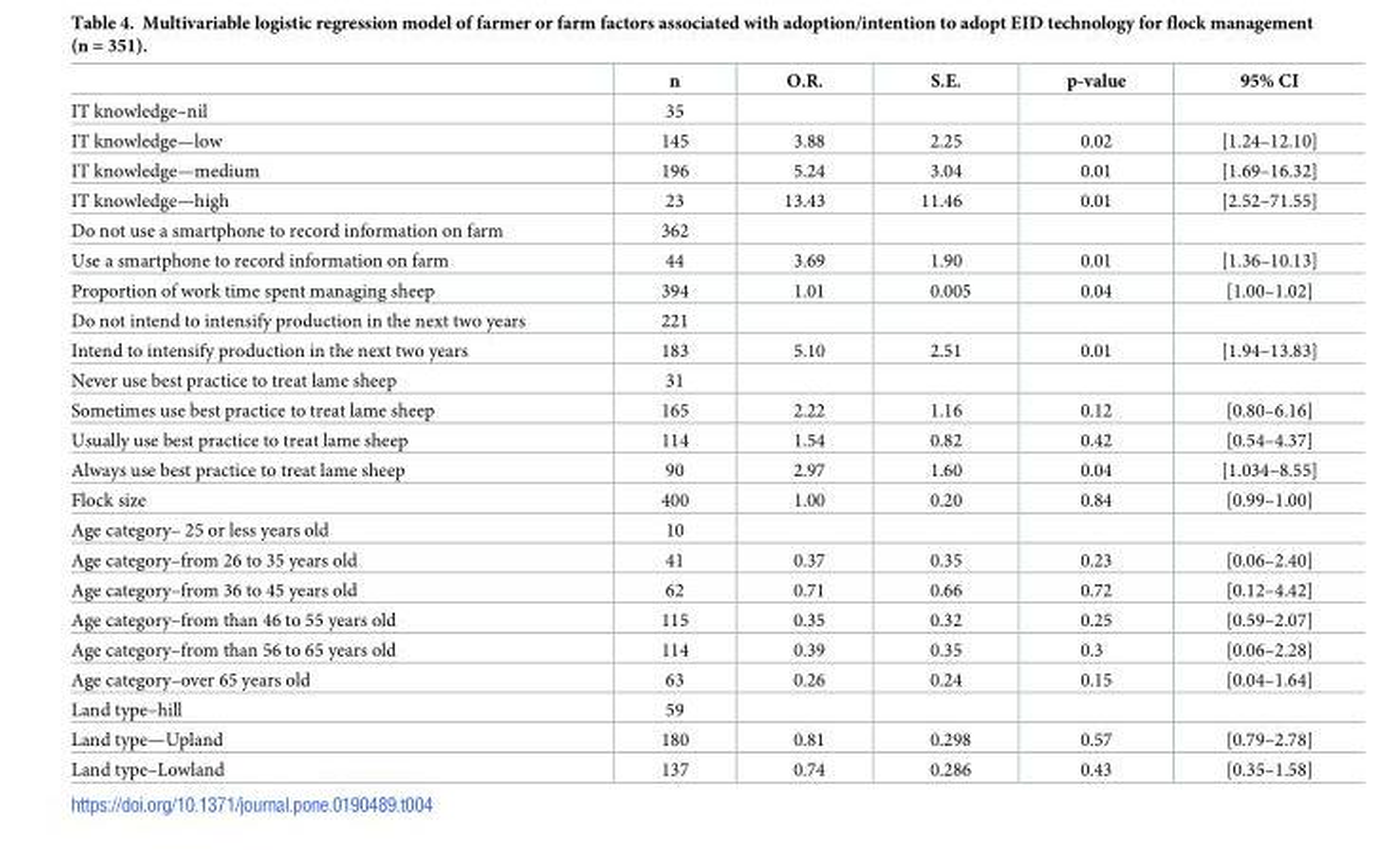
<table><thead><tr><td></td><td>n</td><td>O.R.</td><td>S.E.</td><td>p-value</td><td>95% CI</td></tr></thead><tbody><tr><td>IT knowledge–nil</td><td>35</td><td></td><td></td><td></td><td></td></tr><tr><td>IT knowledge—low</td><td>145</td><td>3.88</td><td>2.25</td><td>0.02</td><td>[1.24–12.10]</td></tr><tr><td>IT knowledge—medium</td><td>196</td><td>5.24</td><td>3.04</td><td>0.01</td><td>[1.69–16.32]</td></tr><tr><td>IT knowledge—high</td><td>23</td><td>13.43</td><td>11.46</td><td>0.01</td><td>[2.52–71.55]</td></tr><tr><td>Do not use a smartphone to record information on farm</td><td>362</td><td></td><td></td><td></td><td></td></tr><tr><td>Use a smartphone to record information on farm</td><td>44</td><td>3.69</td><td>1.90</td><td>0.01</td><td>[1.36–10.13]</td></tr><tr><td>Proportion of work time spent managing sheep</td><td>394</td><td>1.01</td><td>0.005</td><td>0.04</td><td>[1.00–1.02]</td></tr><tr><td>Do not intend to intensify production in the next two years</td><td>221</td><td></td><td></td><td></td><td></td></tr><tr><td>Intend to intensify production in the next two years</td><td>183</td><td>5.10</td><td>2.51</td><td>0.01</td><td>[1.94–13.83]</td></tr><tr><td>Never use best practice to treat lame sheep</td><td>31</td><td></td><td></td><td></td><td></td></tr><tr><td>Sometimes use best practice to treat lame sheep</td><td>165</td><td>2.22</td><td>1.16</td><td>0.12</td><td>[0.80–6.16]</td></tr><tr><td>Usually use best practice to treat lame sheep</td><td>114</td><td>1.54</td><td>0.82</td><td>0.42</td><td>[0.54–4.37]</td></tr><tr><td>Always use best practice to treat lame sheep</td><td>90</td><td>2.97</td><td>1.60</td><td>0.04</td><td>[1.034–8.55]</td></tr><tr><td>Flock size</td><td>400</td><td>1.00</td><td>0.20</td><td>0.84</td><td>[0.99–1.00]</td></tr><tr><td>Age category– 25 or less years old</td><td>10</td><td></td><td></td><td></td><td></td></tr><tr><td>Age category–from 26 to 35 years old</td><td>41</td><td>0.37</td><td>0.35</td><td>0.23</td><td>[0.06–2.40]</td></tr><tr><td>Age category–from 36 to 45 years old</td><td>62</td><td>0.71</td><td>0.66</td><td>0.72</td><td>[0.12–4.42]</td></tr><tr><td>Age category–from than 46 to 55 years old</td><td>115</td><td>0.35</td><td>0.32</td><td>0.25</td><td>[0.59–2.07]</td></tr><tr><td>Age category–from than 56 to 65 years old</td><td>114</td><td>0.39</td><td>0.35</td><td>0.3</td><td>[0.06–2.28]</td></tr><tr><td>Age category–over 65 years old</td><td>63</td><td>0.26</td><td>0.24</td><td>0.15</td><td>[0.04–1.64]</td></tr><tr><td>Land type–hill</td><td>59</td><td></td><td></td><td></td><td></td></tr><tr><td>Land type—Upland</td><td>180</td><td>0.81</td><td>0.298</td><td>0.57</td><td>[0.79–2.78]</td></tr><tr><td>Land type–Lowland</td><td>137</td><td>0.74</td><td>0.286</td><td>0.43</td><td>[0.35–1.58]</td></tr></tbody></table>